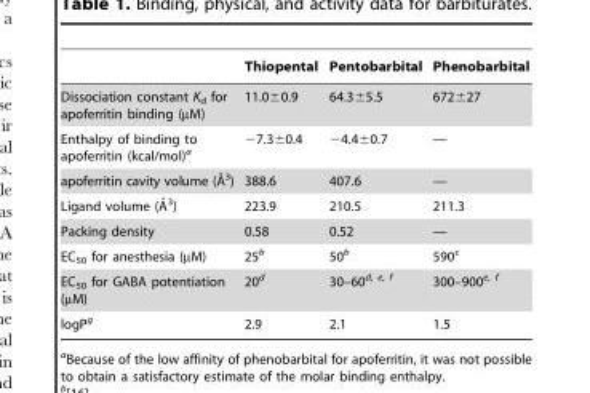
<table><thead><tr><td></td><td>Thiopental</td><td>Pentobarbital</td><td>Phenobarbital</td></tr></thead><tbody><tr><td>Dissociation constant K<sub>d</sub> for apoferritin binding (µM)</td><td>11.0±0.9</td><td>64.3±5.5</td><td>672±27</td></tr><tr><td>Enthalpy of binding to apoferritin (kcal/mol)<sup>a</sup></td><td>−7.3±0.4</td><td>−4.4±0.7</td><td>—</td></tr><tr><td>apoferritin cavity volume (A˚3)</td><td>388.6</td><td>407.6</td><td>—</td></tr><tr><td>Ligand volume (A˚3)</td><td>223.9</td><td>210.5</td><td>211.3</td></tr><tr><td>Packing density</td><td>0.58</td><td>0.52</td><td>—</td></tr><tr><td>EC<sub>50</sub> for anesthesia (µM)</td><td>25<sup>b</sup></td><td>50<sup>b</sup></td><td>590<sup>c</sup></td></tr><tr><td>EC<sub>50</sub> for GABA potentiation (µM)</td><td>20<sup>d</sup></td><td>30–60<sup>d,</sup> e<sup>,</sup> f</td><td>300–900<sup>e,</sup> f</td></tr><tr><td>logP<sup>g</sup></td><td>2.9</td><td>2.1</td><td>1.5</td></tr></tbody></table>